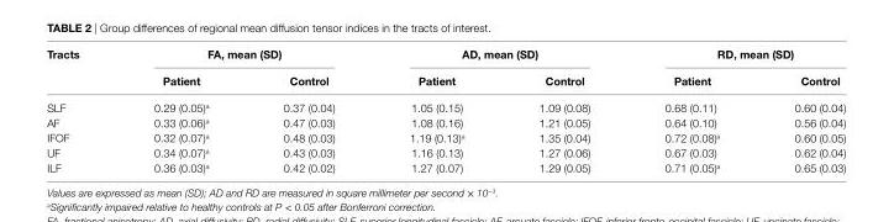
<table><thead><tr><td rowspan="2">Tracts</td><td colspan="2">Fa, mean (sD)</td><td colspan="2">aD, mean (sD)</td><td colspan="2">rD, mean (sD)</td></tr><tr><td>Patient</td><td>control</td><td>Patient</td><td>control</td><td>Patient</td><td>control</td></tr></thead><tbody><tr><td>SLF</td><td>0.29 (0.05)<sup>a</sup></td><td>0.37 (0.04)</td><td>1.05 (0.15)</td><td>1.09 (0.08)</td><td>0.68 (0.11)</td><td>0.60 (0.04)</td></tr><tr><td>AF</td><td>0.33 (0.06)<sup>a</sup></td><td>0.47 (0.03)</td><td>1.08 (0.16)</td><td>1.21 (0.05)</td><td>0.64 (0.10)</td><td>0.56 (0.04)</td></tr><tr><td>IFOF</td><td>0.32 (0.07)<sup>a</sup></td><td>0.48 (0.03)</td><td>1.19 (0.13)<sup>a</sup></td><td>1.35 (0.04)</td><td>0.72 (0.08)<sup>a</sup></td><td>0.60 (0.05)</td></tr><tr><td>UF</td><td>0.34 (0.07)<sup>a</sup></td><td>0.43 (0.03)</td><td>1.16 (0.13)</td><td>1.27 (0.06)</td><td>0.67 (0.03)</td><td>0.62 (0.04)</td></tr><tr><td>ILF</td><td>0.36 (0.03)<sup>a</sup></td><td>0.42 (0.02)</td><td>1.27 (0.07)</td><td>1.29 (0.05)</td><td>0.71 (0.05)<sup>a</sup></td><td>0.65 (0.03)</td></tr></tbody></table>